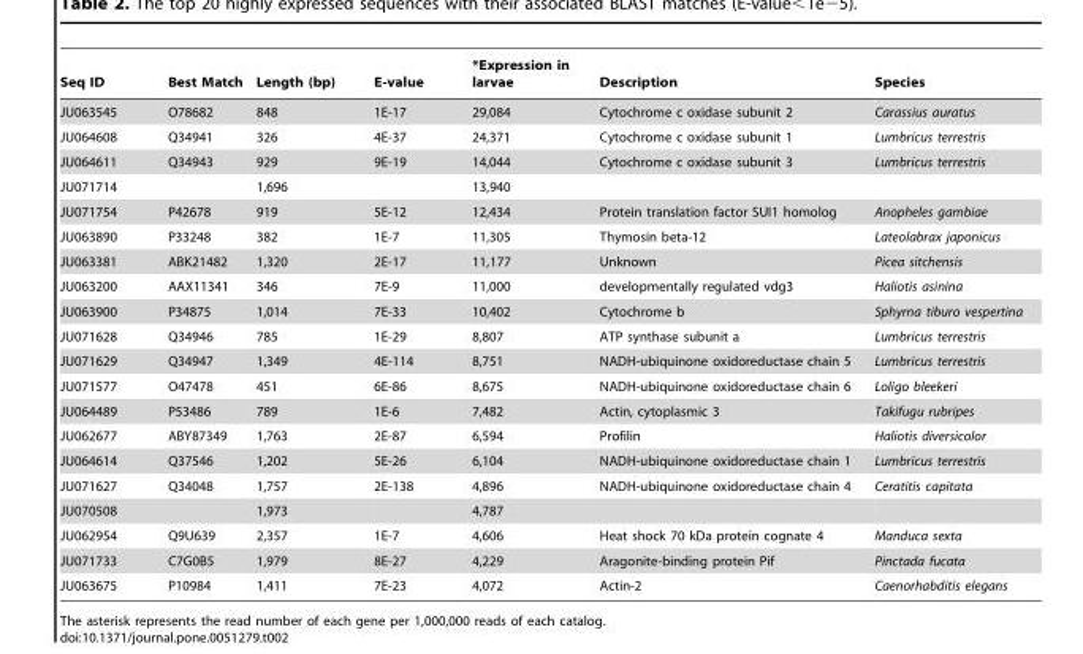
<table><thead><tr><td>Seq ID</td><td>Best Match</td><td>Length (bp)</td><td>E-value</td><td>*Expression in larvae</td><td>Description</td><td>Species</td></tr></thead><tbody><tr><td>JU063545</td><td>O78682</td><td>848</td><td>1E-17</td><td>29,084</td><td>Cytochrome c oxidase subunit 2</td><td>Carassius auratus</td></tr><tr><td>JU064608</td><td>Q34941</td><td>326</td><td>4E-37</td><td>24,371</td><td>Cytochrome c oxidase subunit 1</td><td>Lumbricus terrestris</td></tr><tr><td>JU064611</td><td>Q34943</td><td>929</td><td>9E-19</td><td>14,044</td><td>Cytochrome c oxidase subunit 3</td><td>Lumbricus terrestris</td></tr><tr><td>JU071714</td><td></td><td>1,696</td><td></td><td>13,940</td><td></td><td></td></tr><tr><td>JU071754</td><td>P42678</td><td>919</td><td>5E-12</td><td>12,434</td><td>Protein translation factor SUI1 homolog</td><td>Anopheles gambiae</td></tr><tr><td>JU063890</td><td>P33248</td><td>382</td><td>1E-7</td><td>11,305</td><td>Thymosin beta-12</td><td>Lateolabrax japonicus</td></tr><tr><td>JU063381</td><td>ABK21482</td><td>1,320</td><td>2E-17</td><td>11,177</td><td>Unknown</td><td>Picea sitchensis</td></tr><tr><td>JU063200</td><td>AAX11341</td><td>346</td><td>7E-9</td><td>11,000</td><td>developmentally regulated vdg3</td><td>Haliotis asinina</td></tr><tr><td>JU063900</td><td>P34875</td><td>1,014</td><td>7E-33</td><td>10,402</td><td>Cytochrome b</td><td>Sphyrna tiburo vespertina</td></tr><tr><td>JU071628</td><td>Q34946</td><td>785</td><td>1E-29</td><td>8,807</td><td>ATP synthase subunit a</td><td>Lumbricus terrestris</td></tr><tr><td>JU071629</td><td>Q34947</td><td>1,349</td><td>4E-114</td><td>8,751</td><td>NADH-ubiquinone oxidoreductase chain 5</td><td>Lumbricus terrestris</td></tr><tr><td>JU071577</td><td>O47478</td><td>451</td><td>6E-86</td><td>8,675</td><td>NADH-ubiquinone oxidoreductase chain 6</td><td>Loligo bleekeri</td></tr><tr><td>JU064489</td><td>P53486</td><td>789</td><td>1E-6</td><td>7,482</td><td>Actin, cytoplasmic 3</td><td>Takifugu rubripes</td></tr><tr><td>JU062677</td><td>ABY87349</td><td>1,763</td><td>2E-87</td><td>6,594</td><td>Profilin</td><td>Haliotis diversicolor</td></tr><tr><td>JU064614</td><td>Q37546</td><td>1,202</td><td>5E-26</td><td>6,104</td><td>NADH-ubiquinone oxidoreductase chain 1</td><td>Lumbricus terrestris</td></tr><tr><td>JU071627</td><td>Q34048</td><td>1,757</td><td>2E-138</td><td>4,896</td><td>NADH-ubiquinone oxidoreductase chain 4</td><td>Ceratitis capitata</td></tr><tr><td>JU070508</td><td></td><td>1,973</td><td></td><td>4,787</td><td></td><td></td></tr><tr><td>JU062954</td><td>Q9U639</td><td>2,357</td><td>1E-7</td><td>4,606</td><td>Heat shock 70 kDa protein cognate 4</td><td>Manduca sexta</td></tr><tr><td>JU071733</td><td>C7G0B5</td><td>1,979</td><td>8E-27</td><td>4,229</td><td>Aragonite-binding protein Pif</td><td>Pinctada fucata</td></tr><tr><td>JU063675</td><td>P10984</td><td>1,411</td><td>7E-23</td><td>4,072</td><td>Actin-2</td><td>Caenorhabditis elegans</td></tr></tbody></table>